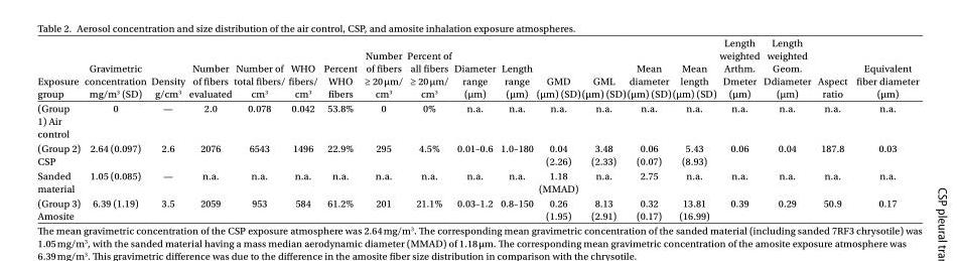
<table><thead><tr><td>Exposure group</td><td>Gravimetric concentration mg/m<sup>3</sup> (SD)</td><td>Density g/cm<sup>3</sup></td><td>Number of fibers evaluated</td><td>Number of total fibers/ cm<sup>3</sup></td><td>WHO fibers/ cm<sup>3</sup></td><td>Percent WHO fibers</td><td>Number of fibers ≥ 20 µm/ cm<sup>3</sup></td><td>Percent of all fibers ≥ 20 µm/ cm<sup>3</sup></td><td>Diameter range (µm)</td><td>Length range (µm)</td><td>GMD (µm) (SD)</td><td>GML (µm) (SD)</td><td>Mean diameter (µm) (SD)</td><td>Mean length (µm) (SD)</td><td>Length weighted Arthm. Dmeter (µm)</td><td>Length weighted Geom. Ddiameter (µm)</td><td>Aspect ratio</td><td>Equivalent fiber diameter (µm)</td></tr></thead><tbody><tr><td>(Group 1) Air control</td><td>0</td><td>—</td><td>2.0</td><td>0.078</td><td>0.042</td><td>53.8%</td><td>0</td><td>0%</td><td>n.a.</td><td>n.a.</td><td>n.a.</td><td>n.a.</td><td>n.a.</td><td>n.a.</td><td>n.a.</td><td>n.a.</td><td>n.a.</td><td>n.a.</td></tr><tr><td>(Group 2) CSP</td><td>2.64 (0.097)</td><td>2.6</td><td>2076</td><td>6543</td><td>1496</td><td>22.9%</td><td>295</td><td>4.5%</td><td>0.01–0.6</td><td>1.0–180</td><td>0.04 (2.26)</td><td>3.48 (2.33)</td><td>0.06 (0.07)</td><td>5.43 (8.93)</td><td>0.06</td><td>0.04</td><td>187.8</td><td>0.03</td></tr><tr><td>Sanded material</td><td>1.05 (0.085)</td><td>—</td><td>n.a.</td><td>n.a.</td><td>n.a.</td><td>n.a.</td><td>n.a.</td><td>n.a.</td><td>n.a.</td><td>n.a.</td><td>1.18 (MMAD)</td><td>n.a.</td><td>2.75</td><td>n.a.</td><td>n.a.</td><td>n.a.</td><td>n.a.</td><td>n.a.</td></tr><tr><td>(Group 3) Amosite</td><td>6.39 (1.19)</td><td>3.5</td><td>2059</td><td>953</td><td>584</td><td>61.2%</td><td>201</td><td>21.1%</td><td>0.03–1.2</td><td>0.8–150</td><td>0.26 (1.95)</td><td>8.13 (2.91)</td><td>0.32 (0.17)</td><td>13.81 (16.99)</td><td>0.39</td><td>0.29</td><td>50.9</td><td>0.17</td></tr></tbody></table>